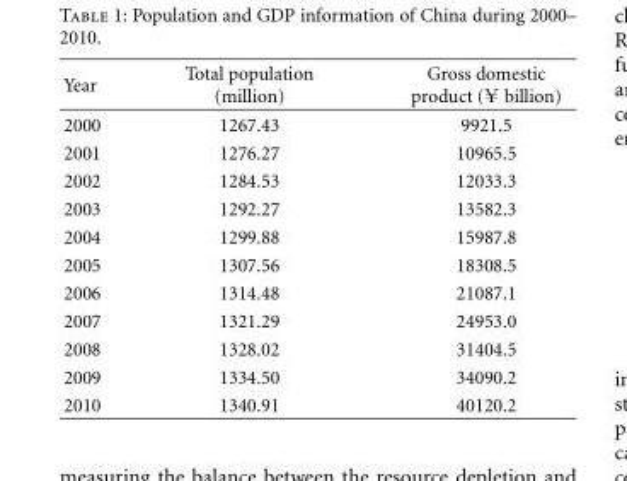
<table><thead><tr><td>Year</td><td>Total population (million)</td><td>Gross domestic product (¥ billion)</td></tr></thead><tbody><tr><td>2000</td><td>1267.43</td><td>9921.5</td></tr><tr><td>2001</td><td>1276.27</td><td>10965.5</td></tr><tr><td>2002</td><td>1284.53</td><td>12033.3</td></tr><tr><td>2003</td><td>1292.27</td><td>13582.3</td></tr><tr><td>2004</td><td>1299.88</td><td>15987.8</td></tr><tr><td>2005</td><td>1307.56</td><td>18308.5</td></tr><tr><td>2006</td><td>1314.48</td><td>21087.1</td></tr><tr><td>2007</td><td>1321.29</td><td>24953.0</td></tr><tr><td>2008</td><td>1328.02</td><td>31404.5</td></tr><tr><td>2009</td><td>1334.50</td><td>34090.2</td></tr><tr><td>2010</td><td>1340.91</td><td>40120.2</td></tr></tbody></table>